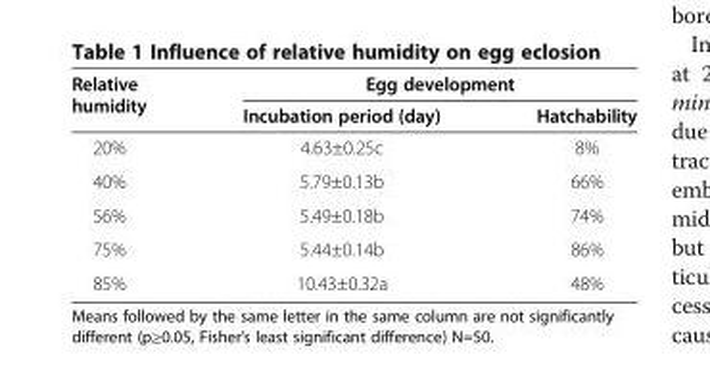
<table><thead><tr><td rowspan="2">Relative humidity</td><td colspan="2">Egg development</td></tr><tr><td>Incubation period (day)</td><td>Hatchability</td></tr></thead><tbody><tr><td>20%</td><td>4.63±0.25c</td><td>8%</td></tr><tr><td>40%</td><td>5.79±0.13b</td><td>66%</td></tr><tr><td>56%</td><td>5.49±0.18b</td><td>74%</td></tr><tr><td>75%</td><td>5.44±0.14b</td><td>86%</td></tr><tr><td>85%</td><td>10.43±0.32a</td><td>48%</td></tr></tbody></table>